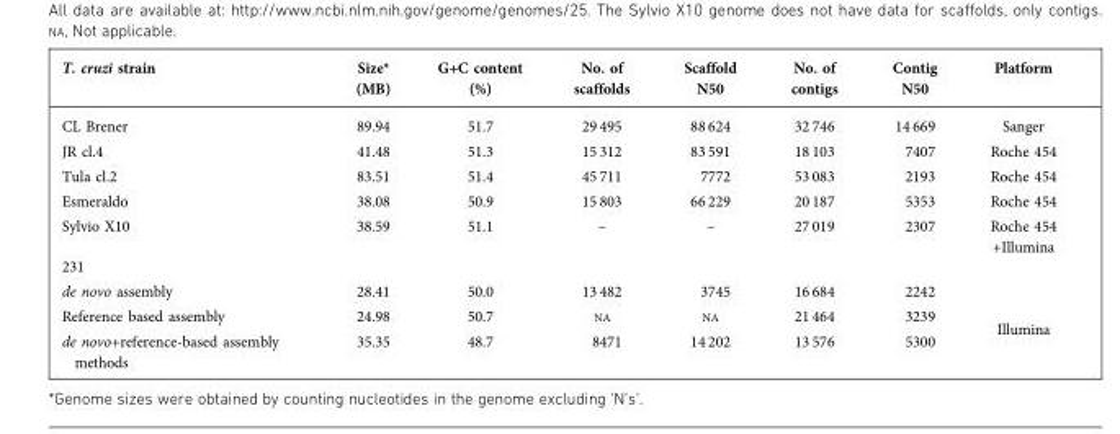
<table><thead><tr><td>T. cruzi strain</td><td>Size* (MB)</td><td>G+C content (%)</td><td>No. of scaffolds</td><td>Scaffold N50</td><td>No. of contigs</td><td>Contig N50</td><td>Platform</td></tr></thead><tbody><tr><td>CL Brener</td><td>89.94</td><td>51.7</td><td>29 495</td><td>88 624</td><td>32 746</td><td>14 669</td><td>Sanger</td></tr><tr><td>JR cl.4</td><td>41.48</td><td>51.3</td><td>15 312</td><td>83 591</td><td>18 103</td><td>7407</td><td>Roche 454</td></tr><tr><td>Tula cl.2</td><td>83.51</td><td>51.4</td><td>45 711</td><td>7772</td><td>53 083</td><td>2193</td><td>Roche 454</td></tr><tr><td>Esmeraldo</td><td>38.08</td><td>50.9</td><td>15 803</td><td>66 229</td><td>20 187</td><td>5353</td><td>Roche 454</td></tr><tr><td>Sylvio X10</td><td>38.59</td><td>51.1</td><td>–</td><td>–</td><td>27 019</td><td>2307</td><td>Roche 454 +Illumina</td></tr><tr><td colspan="8">231</td></tr><tr><td>de novo assembly</td><td>28.41</td><td>50.0</td><td>13 482</td><td>3745</td><td>16 684</td><td>2242</td><td rowspan="3">Illumina</td></tr><tr><td>Reference based assembly</td><td>24.98</td><td>50.7</td><td>NA</td><td>NA</td><td>21 464</td><td>3239</td></tr><tr><td>de novo+reference-based assembly methods</td><td>35.35</td><td>48.7</td><td>8471</td><td>14 202</td><td>13 576</td><td>5300</td></tr></tbody></table>